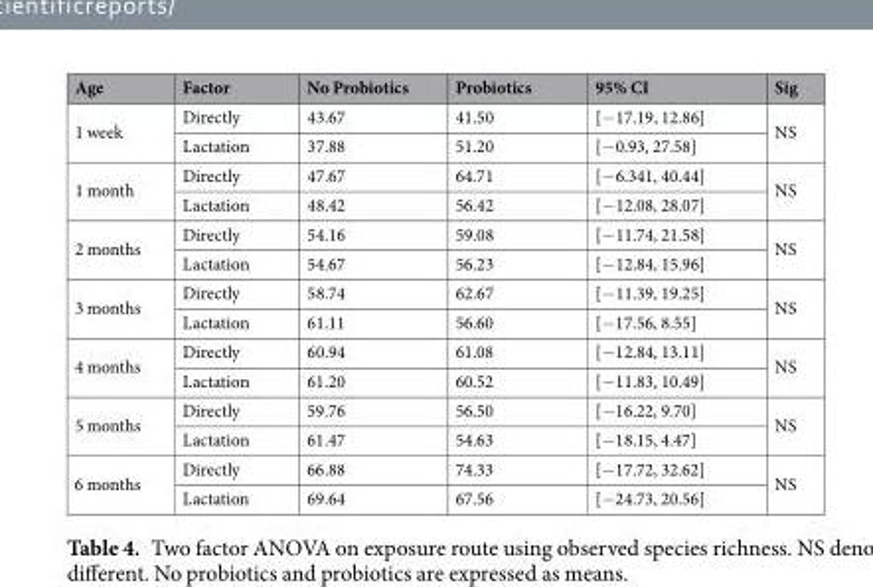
<table><thead><tr><td>Age</td><td>Factor</td><td>No Probiotics</td><td>Probiotics</td><td>95% CI</td><td>Sig</td></tr></thead><tbody><tr><td rowspan="2">1 week</td><td>Directly</td><td>43.67</td><td>41.50</td><td>[−17.19, 12.86]</td><td rowspan="2">NS</td></tr><tr><td>Lactation</td><td>37.88</td><td>51.20</td><td>[−0.93, 27.58]</td></tr><tr><td rowspan="2">1 month</td><td>Directly</td><td>47.67</td><td>64.71</td><td>[−6.341, 40.44]</td><td rowspan="2">NS</td></tr><tr><td>Lactation</td><td>48.42</td><td>56.42</td><td>[−12.08, 28.07]</td></tr><tr><td rowspan="2">2 months</td><td>Directly</td><td>54.16</td><td>59.08</td><td>[−11.74, 21.58]</td><td rowspan="2">NS</td></tr><tr><td>Lactation</td><td>54.67</td><td>56.23</td><td>[−12.84, 15.96]</td></tr><tr><td rowspan="2">3 months</td><td>Directly</td><td>58.74</td><td>62.67</td><td>[−11.39, 19.25]</td><td rowspan="2">NS</td></tr><tr><td>Lactation</td><td>61.11</td><td>56.60</td><td>[−17.56, 8.55]</td></tr><tr><td rowspan="2">4 months</td><td>Directly</td><td>60.94</td><td>61.08</td><td>[−12.84, 13.11]</td><td rowspan="2">NS</td></tr><tr><td>Lactation</td><td>61.20</td><td>60.52</td><td>[−11.83, 10.49]</td></tr><tr><td rowspan="2">5 months</td><td>Directly</td><td>59.76</td><td>56.50</td><td>[−16.22, 9.70]</td><td rowspan="2">NS</td></tr><tr><td>Lactation</td><td>61.47</td><td>54.63</td><td>[−18.15, 4.47]</td></tr><tr><td rowspan="2">6 months</td><td>Directly</td><td>66.88</td><td>74.33</td><td>[−17.72, 32.62]</td><td rowspan="2">NS</td></tr><tr><td>Lactation</td><td>69.64</td><td>67.56</td><td>[−24.73, 20.56]</td></tr></tbody></table>